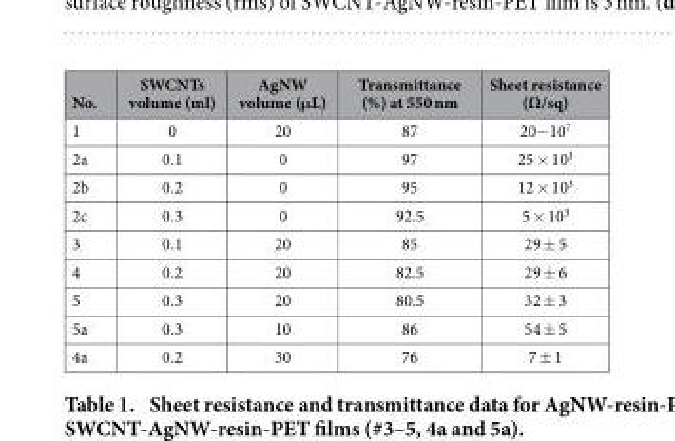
<table><thead><tr><td>No.</td><td>SWCNTs volume (ml)</td><td>AgNW volume (μL)</td><td>Transmittance (%) at 550 nm</td><td>Sheet resistance (Ω/sq)</td></tr></thead><tbody><tr><td>1</td><td>0</td><td>20</td><td>87</td><td>20−10<sup>7</sup></td></tr><tr><td>2a</td><td>0.1</td><td>0</td><td>97</td><td>25 × 10<sup>3</sup></td></tr><tr><td>2b</td><td>0.2</td><td>0</td><td>95</td><td>12 × 10<sup>3</sup></td></tr><tr><td>2c</td><td>0.3</td><td>0</td><td>92.5</td><td>5 × 10<sup>3</sup></td></tr><tr><td>3</td><td>0.1</td><td>20</td><td>85</td><td>29 ± 5</td></tr><tr><td>4</td><td>0.2</td><td>20</td><td>82.5</td><td>29 ± 6</td></tr><tr><td>5</td><td>0.3</td><td>20</td><td>80.5</td><td>32 ± 3</td></tr><tr><td>5a</td><td>0.3</td><td>10</td><td>86</td><td>54 ± 5</td></tr><tr><td>4a</td><td>0.2</td><td>30</td><td>76</td><td>7 ± 1</td></tr></tbody></table>